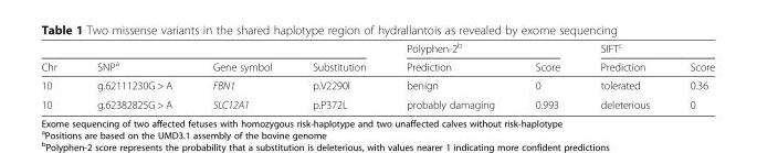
<table><thead><tr><td rowspan="2">Chr</td><td rowspan="2">SNP<sup>a</sup></td><td rowspan="2">Gene symbol</td><td rowspan="2">Substitution</td><td colspan="2">Polyphen-2<sup>b</sup></td><td colspan="2">SIFT<sup>c</sup></td></tr><tr><td>Prediction</td><td>Score</td><td>Prediction</td><td>Score</td></tr></thead><tbody><tr><td>10</td><td>g.62111230G &gt; A</td><td>FBN1</td><td>p.V2290I</td><td>benign</td><td>0</td><td>tolerated</td><td>0.36</td></tr><tr><td>10</td><td>g.62382825G &gt; A</td><td>SLC12A1</td><td>p.P372L</td><td>probably damaging</td><td>0.993</td><td>deleterious</td><td>0</td></tr></tbody></table>